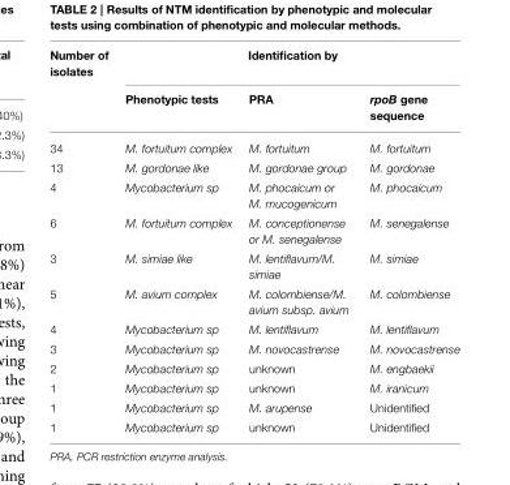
<table><thead><tr><td rowspan="2">Number of isolates</td><td colspan="3">Identification by</td></tr><tr><td>Phenotypic tests</td><td>PRA</td><td>rpoB gene sequence</td></tr></thead><tbody><tr><td>34</td><td>M. fortuitum complex</td><td>M. fortuitum</td><td>M. fortuitum</td></tr><tr><td>13</td><td>M. gordonae like</td><td>M. gordonae group</td><td>M. gordonae</td></tr><tr><td>4</td><td>Mycobacterium sp</td><td>M. phocaicum or M. mucogenicum</td><td>M. phocaicum</td></tr><tr><td>6</td><td>M. fortuitum complex</td><td>M. conceptionense or M. senegalense</td><td>M. senegalense</td></tr><tr><td>3</td><td>M. simiae like</td><td>M. lentiflavum/M. simiae</td><td>M. simiae</td></tr><tr><td>5</td><td>M. avium complex</td><td>M. colombiense/M. avium subsp. avium</td><td>M. colombiense</td></tr><tr><td>4</td><td>Mycobacterium sp</td><td>M. lentiflavum</td><td>M. lentiflavum</td></tr><tr><td>3</td><td>Mycobacterium sp</td><td>M. novocastrense</td><td>M. novocastrense</td></tr><tr><td>2</td><td>Mycobacterium sp</td><td>unknown</td><td>M. engbaekii</td></tr><tr><td>1</td><td>Mycobacterium sp</td><td>unknown</td><td>M. iranicum</td></tr><tr><td>1</td><td>Mycobacterium sp</td><td>M. arupense</td><td>Unidentified</td></tr><tr><td>1</td><td>Mycobacterium sp</td><td>unknown</td><td>Unidentified</td></tr></tbody></table>